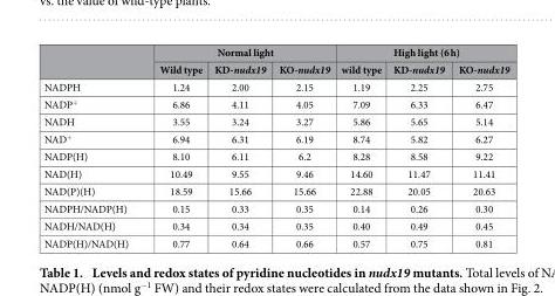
<table><thead><tr><td rowspan="2"></td><td colspan="3">Normal light</td><td colspan="3">High light (6 h)</td></tr><tr><td>Wild type</td><td>KD-nudx19</td><td>KO-nudx19</td><td>wild type</td><td>KD-nudx19</td><td>KO-nudx19</td></tr></thead><tbody><tr><td>NADPH</td><td>1.24</td><td>2.00</td><td>2.15</td><td>1.19</td><td>2.25</td><td>2.75</td></tr><tr><td>NADP<sup>+</sup></td><td>6.86</td><td>4.11</td><td>4.05</td><td>7.09</td><td>6.33</td><td>6.47</td></tr><tr><td>NADH</td><td>3.55</td><td>3.24</td><td>3.27</td><td>5.86</td><td>5.65</td><td>5.14</td></tr><tr><td>NAD<sup>+</sup></td><td>6.94</td><td>6.31</td><td>6.19</td><td>8.74</td><td>5.82</td><td>6.27</td></tr><tr><td>NADP(H)</td><td>8.10</td><td>6.11</td><td>6.2</td><td>8.28</td><td>8.58</td><td>9.22</td></tr><tr><td>NAD(H)</td><td>10.49</td><td>9.55</td><td>9.46</td><td>14.60</td><td>11.47</td><td>11.41</td></tr><tr><td>NAD(P)(H)</td><td>18.59</td><td>15.66</td><td>15.66</td><td>22.88</td><td>20.05</td><td>20.63</td></tr><tr><td>NADPH/NADP(H)</td><td>0.15</td><td>0.33</td><td>0.35</td><td>0.14</td><td>0.26</td><td>0.30</td></tr><tr><td>NADH/NAD(H)</td><td>0.34</td><td>0.34</td><td>0.35</td><td>0.40</td><td>0.49</td><td>0.45</td></tr><tr><td>NADP(H)/NAD(H)</td><td>0.77</td><td>0.64</td><td>0.66</td><td>0.57</td><td>0.75</td><td>0.81</td></tr></tbody></table>